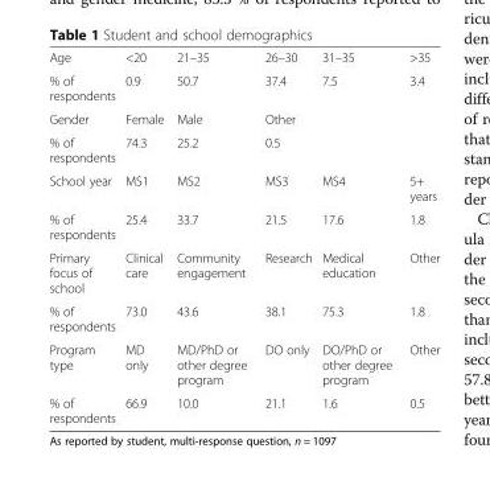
<table><tbody><tr><td>Age</td><td>&lt;20</td><td>21–35</td><td>26–30</td><td>31–35</td><td>&gt;35</td></tr><tr><td>% of respondents</td><td>0.9</td><td>50.7</td><td>37.4</td><td>7.5</td><td>3.4</td></tr><tr><td>Gender</td><td>Female</td><td>Male</td><td>Other</td><td></td><td></td></tr><tr><td>% of respondents</td><td>74.3</td><td>25.2</td><td>0.5</td><td></td><td></td></tr><tr><td>School year</td><td>MS1</td><td>MS2</td><td>MS3</td><td>MS4</td><td>5+ years</td></tr><tr><td>% of respondents</td><td>25.4</td><td>33.7</td><td>21.5</td><td>17.6</td><td>1.8</td></tr><tr><td>Primary focus of school</td><td>Clinical care</td><td>Community engagement</td><td>Research</td><td>Medical education</td><td>Other</td></tr><tr><td>% of respondents</td><td>73.0</td><td>43.6</td><td>38.1</td><td>75.3</td><td>1.8</td></tr><tr><td>Program type</td><td>MD only</td><td>MD/PhD or other degree program</td><td>DO only</td><td>DO/PhD or other degree program</td><td>Other</td></tr><tr><td>% of respondents</td><td>66.9</td><td>10.0</td><td>21.1</td><td>1.6</td><td>0.5</td></tr></tbody></table>